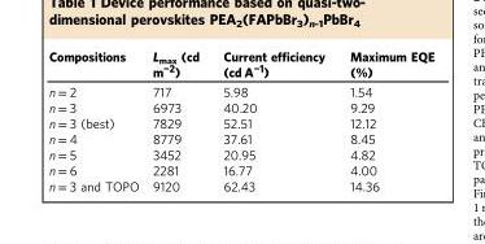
<table><thead><tr><td>Compositions</td><td>L<sub>max</sub> (cd m<sup>−2</sup>)</td><td>Current efficiency (cd A<sup>−1</sup>)</td><td>Maximum EQE (%)</td></tr></thead><tbody><tr><td>n = 2</td><td>717</td><td>5.98</td><td>1.54</td></tr><tr><td>n = 3</td><td>6973</td><td>40.20</td><td>9.29</td></tr><tr><td>n = 3 (best)</td><td>7829</td><td>52.51</td><td>12.12</td></tr><tr><td>n = 4</td><td>8779</td><td>37.61</td><td>8.45</td></tr><tr><td>n = 5</td><td>3452</td><td>20.95</td><td>4.82</td></tr><tr><td>n = 6</td><td>2281</td><td>16.77</td><td>4.00</td></tr><tr><td>n = 3 and TOPO</td><td>9120</td><td>62.43</td><td>14.36</td></tr></tbody></table>